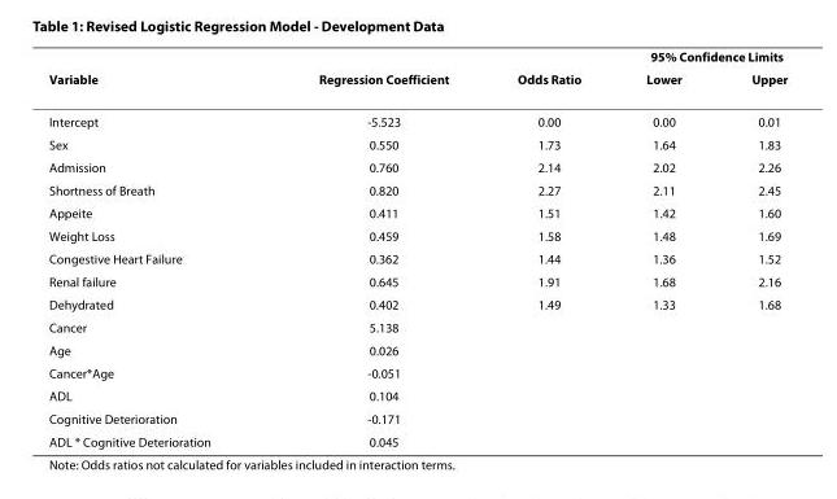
<table><thead><tr><td rowspan="2">Variable</td><td rowspan="2">Regression Coefficient</td><td rowspan="2">Odds Ratio</td><td colspan="2">95% Confidence Limits</td></tr><tr><td>Lower</td><td>Upper</td></tr></thead><tbody><tr><td>Intercept</td><td>-5.523</td><td>0.00</td><td>0.00</td><td>0.01</td></tr><tr><td>Sex</td><td>0.550</td><td>1.73</td><td>1.64</td><td>1.83</td></tr><tr><td>Admission</td><td>0.760</td><td>2.14</td><td>2.02</td><td>2.26</td></tr><tr><td>Shortness of Breath</td><td>0.820</td><td>2.27</td><td>2.11</td><td>2.45</td></tr><tr><td>Appeite</td><td>0.411</td><td>1.51</td><td>1.42</td><td>1.60</td></tr><tr><td>Weight Loss</td><td>0.459</td><td>1.58</td><td>1.48</td><td>1.69</td></tr><tr><td>Congestive Heart Failure</td><td>0.362</td><td>1.44</td><td>1.36</td><td>1.52</td></tr><tr><td>Renal failure</td><td>0.645</td><td>1.91</td><td>1.68</td><td>2.16</td></tr><tr><td>Dehydrated</td><td>0.402</td><td>1.49</td><td>1.33</td><td>1.68</td></tr><tr><td>Cancer</td><td>5.138</td><td></td><td></td><td></td></tr><tr><td>Age</td><td>0.026</td><td></td><td></td><td></td></tr><tr><td>Cancer*Age</td><td>-0.051</td><td></td><td></td><td></td></tr><tr><td>ADL</td><td>0.104</td><td></td><td></td><td></td></tr><tr><td>Cognitive Deterioration</td><td>-0.171</td><td></td><td></td><td></td></tr><tr><td>ADL * Cognitive Deterioration</td><td>0.045</td><td></td><td></td><td></td></tr></tbody></table>